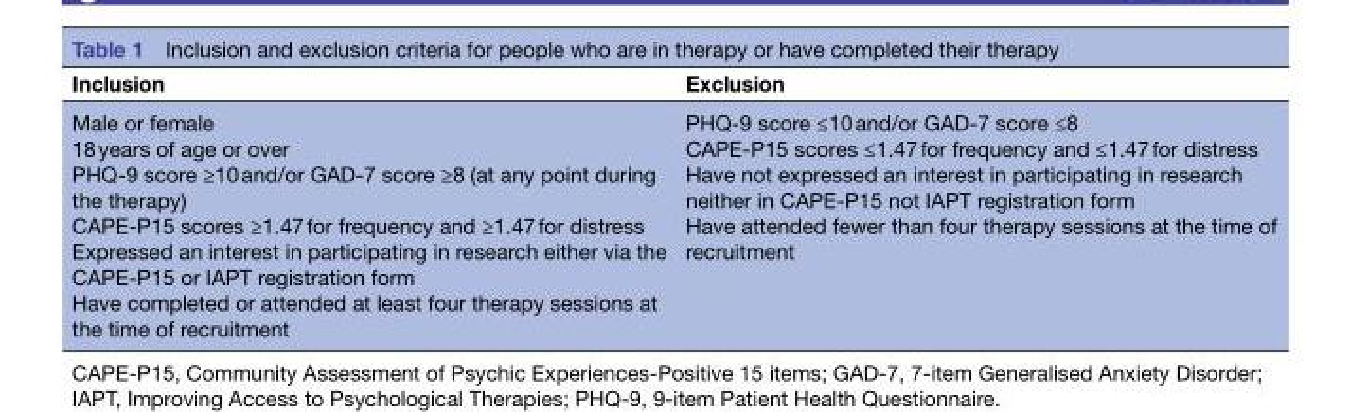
<table><thead><tr><td>Inclusion</td><td>Exclusion</td></tr></thead><tbody><tr><td>Male or female 18 years of age or over PHQ-9 score ≥10 and/or GAD-7 score ≥8 (at any point during the therapy) CAPE-P15 scores ≥1.47 for frequency and ≥1.47 for distress Expressed an interest in participating in research either via the CAPE-P15 or IAPT registration form Have completed or attended at least four therapy sessions at the time of recruitment</td><td>PHQ-9 score ≤10 and/or GAD-7 score ≤8 CAPE-P15 scores ≤1.47 for frequency and ≤1.47 for distress Have not expressed an interest in participating in research neither in CAPE-P15 not IAPT registration form Have attended fewer than four therapy sessions at the time of recruitment</td></tr></tbody></table>